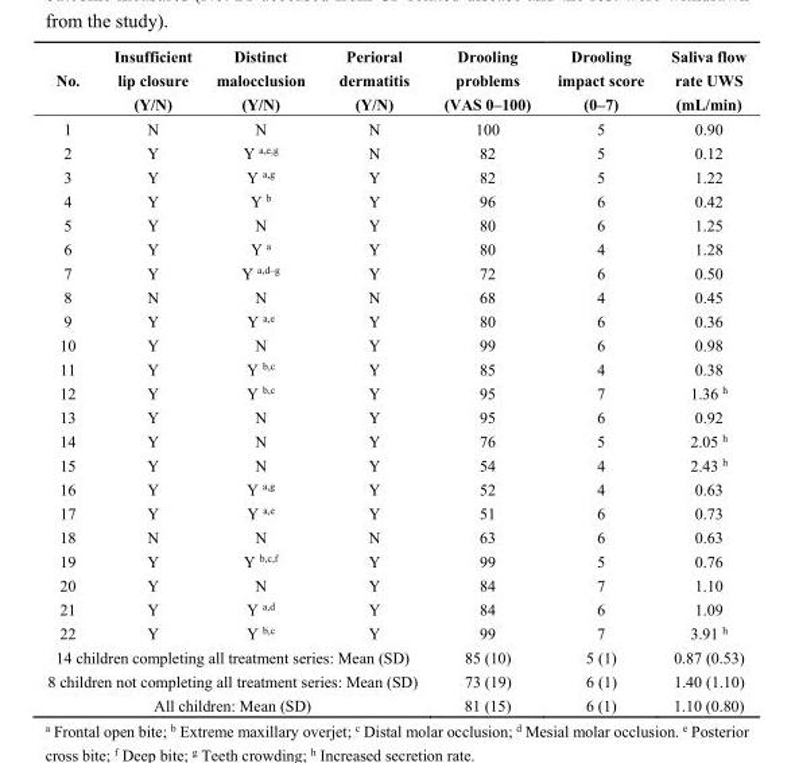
<table><thead><tr><td>No.</td><td>Insufficient lip closure (Y/N)</td><td>Distinct malocclusion (Y/N)</td><td>Perioral dermatitis (Y/N)</td><td>Drooling problems (VAS 0–100)</td><td>Drooling impact score (0–7)</td><td>Saliva flow rate UWS (mL/min)</td></tr></thead><tbody><tr><td>1</td><td>N</td><td>N</td><td>N</td><td>100</td><td>5</td><td>0.90</td></tr><tr><td>2</td><td>Y</td><td>Y <sup>a,e,g</sup></td><td>N</td><td>82</td><td>5</td><td>0.12</td></tr><tr><td>3</td><td>Y</td><td>Y <sup>a,g</sup></td><td>Y</td><td>82</td><td>5</td><td>1.22</td></tr><tr><td>4</td><td>Y</td><td>Y <sup>b</sup></td><td>Y</td><td>96</td><td>6</td><td>0.42</td></tr><tr><td>5</td><td>Y</td><td>N</td><td>Y</td><td>80</td><td>6</td><td>1.25</td></tr><tr><td>6</td><td>Y</td><td>Y <sup>a</sup></td><td>Y</td><td>80</td><td>4</td><td>1.28</td></tr><tr><td>7</td><td>Y</td><td>Y <sup>a,d–g</sup></td><td>Y</td><td>72</td><td>6</td><td>0.50</td></tr><tr><td>8</td><td>N</td><td>N</td><td>N</td><td>68</td><td>4</td><td>0.45</td></tr><tr><td>9</td><td>Y</td><td>Y <sup>a,e</sup></td><td>Y</td><td>80</td><td>6</td><td>0.36</td></tr><tr><td>10</td><td>Y</td><td>N</td><td>Y</td><td>99</td><td>6</td><td>0.98</td></tr><tr><td>11</td><td>Y</td><td>Y <sup>b,c</sup></td><td>Y</td><td>85</td><td>4</td><td>0.38</td></tr><tr><td>12</td><td>Y</td><td>Y <sup>b,c</sup></td><td>Y</td><td>95</td><td>7</td><td>1.36 <sup>h</sup></td></tr><tr><td>13</td><td>Y</td><td>N</td><td>Y</td><td>95</td><td>6</td><td>0.92</td></tr><tr><td>14</td><td>Y</td><td>N</td><td>Y</td><td>76</td><td>5</td><td>2.05 <sup>h</sup></td></tr><tr><td>15</td><td>Y</td><td>N</td><td>Y</td><td>54</td><td>4</td><td>2.43 <sup>h</sup></td></tr><tr><td>16</td><td>Y</td><td>Y <sup>a,g</sup></td><td>Y</td><td>52</td><td>4</td><td>0.63</td></tr><tr><td>17</td><td>Y</td><td>Y <sup>a,e</sup></td><td>Y</td><td>51</td><td>6</td><td>0.73</td></tr><tr><td>18</td><td>N</td><td>N</td><td>N</td><td>63</td><td>6</td><td>0.63</td></tr><tr><td>19</td><td>Y</td><td>Y <sup>b,c,f</sup></td><td>Y</td><td>99</td><td>5</td><td>0.76</td></tr><tr><td>20</td><td>Y</td><td>N</td><td>Y</td><td>84</td><td>7</td><td>1.10</td></tr><tr><td>21</td><td>Y</td><td>Y <sup>a,d</sup></td><td>Y</td><td>84</td><td>6</td><td>1.09</td></tr><tr><td>22</td><td>Y</td><td>Y <sup>b,c</sup></td><td>Y</td><td>99</td><td>7</td><td>3.91 <sup>h</sup></td></tr><tr><td colspan="4">14 children completing all treatment series: Mean (SD)</td><td>85 (10)</td><td>5 (1)</td><td>0.87 (0.53)</td></tr><tr><td colspan="4">8 children not completing all treatment series: Mean (SD)</td><td>73 (19)</td><td>6 (1)</td><td>1.40 (1.10)</td></tr><tr><td colspan="4">All children: Mean (SD)</td><td>81 (15)</td><td>6 (1)</td><td>1.10 (0.80)</td></tr></tbody></table>